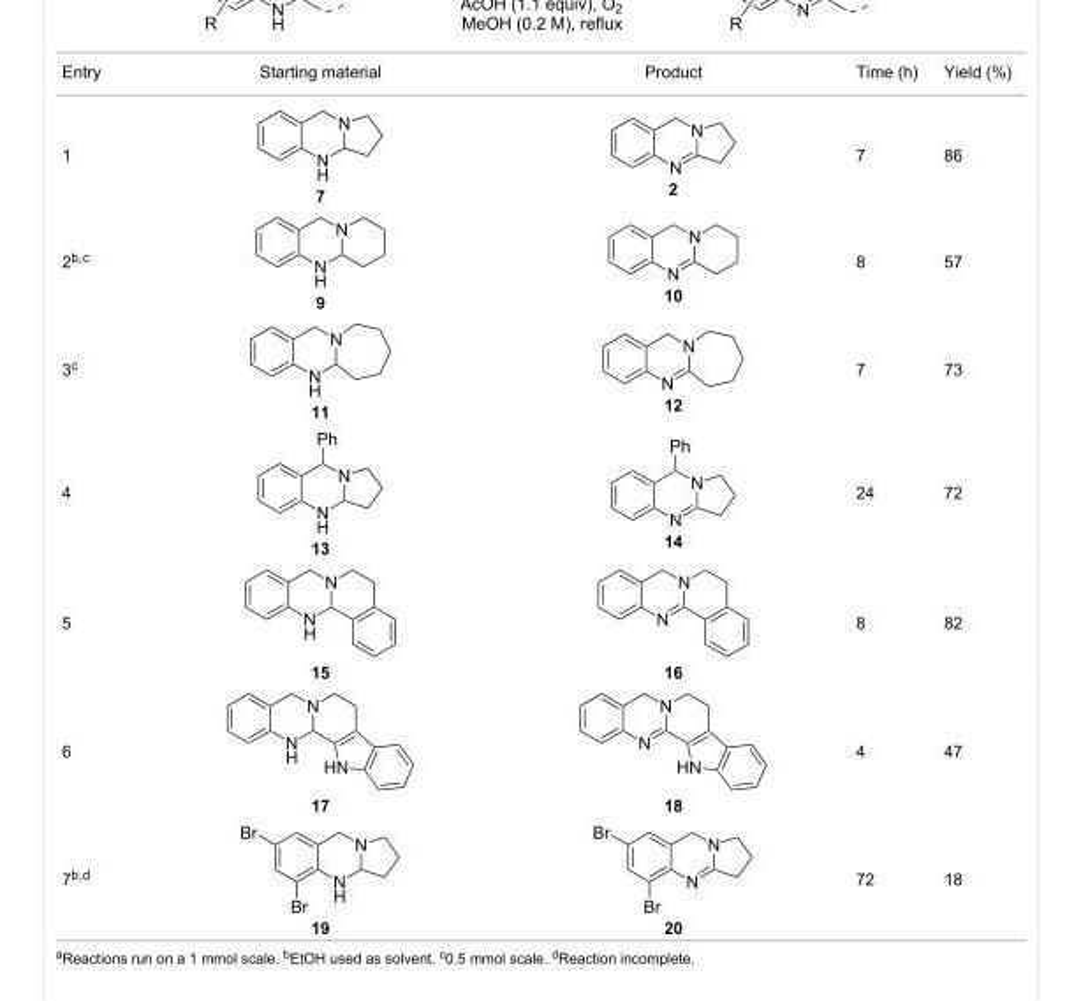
<table><tbody><tr><td>Entry</td><td>Starting material</td><td>Product</td><td>Time (h)</td><td>Yield (%)</td></tr><tr><td>1</td><td>7</td><td>2</td><td>7</td><td>86</td></tr><tr><td>2b,c</td><td>9</td><td>10</td><td>8</td><td>57</td></tr><tr><td>3c</td><td>11</td><td>12</td><td>7</td><td>73</td></tr><tr><td>4</td><td>13</td><td>14</td><td>24</td><td>72</td></tr><tr><td>5</td><td>15</td><td>16</td><td>8</td><td>82</td></tr><tr><td>6</td><td>17</td><td>18</td><td>4</td><td>47</td></tr><tr><td>7b,d</td><td>19</td><td>20</td><td>72</td><td>18</td></tr></tbody></table>